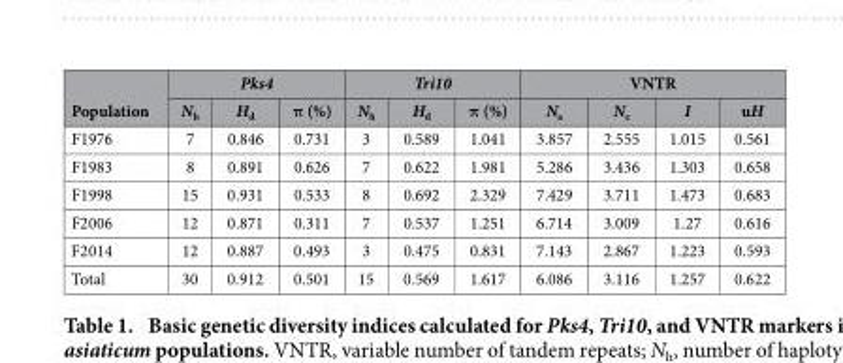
<table><thead><tr><td rowspan="2">Population</td><td colspan="3">Pks4</td><td colspan="3">Tri10</td><td colspan="4">VNTR</td></tr><tr><td>N<sub>h</sub></td><td>H<sub>d</sub></td><td>π (%)</td><td>N<sub>h</sub></td><td>H<sub>d</sub></td><td>π (%)</td><td>N<sub>a</sub></td><td>N<sub>e</sub></td><td>I</td><td>uH</td></tr></thead><tbody><tr><td>F1976</td><td>7</td><td>0.846</td><td>0.731</td><td>3</td><td>0.589</td><td>1.041</td><td>3.857</td><td>2.555</td><td>1.015</td><td>0.561</td></tr><tr><td>F1983</td><td>8</td><td>0.891</td><td>0.626</td><td>7</td><td>0.622</td><td>1.981</td><td>5.286</td><td>3.436</td><td>1.303</td><td>0.658</td></tr><tr><td>F1998</td><td>15</td><td>0.931</td><td>0.533</td><td>8</td><td>0.692</td><td>2.329</td><td>7.429</td><td>3.711</td><td>1.473</td><td>0.683</td></tr><tr><td>F2006</td><td>12</td><td>0.871</td><td>0.311</td><td>7</td><td>0.537</td><td>1.251</td><td>6.714</td><td>3.009</td><td>1.27</td><td>0.616</td></tr><tr><td>F2014</td><td>12</td><td>0.887</td><td>0.493</td><td>3</td><td>0.475</td><td>0.831</td><td>7.143</td><td>2.867</td><td>1.223</td><td>0.593</td></tr><tr><td>Total</td><td>30</td><td>0.912</td><td>0.501</td><td>15</td><td>0.569</td><td>1.617</td><td>6.086</td><td>3.116</td><td>1.257</td><td>0.622</td></tr></tbody></table>